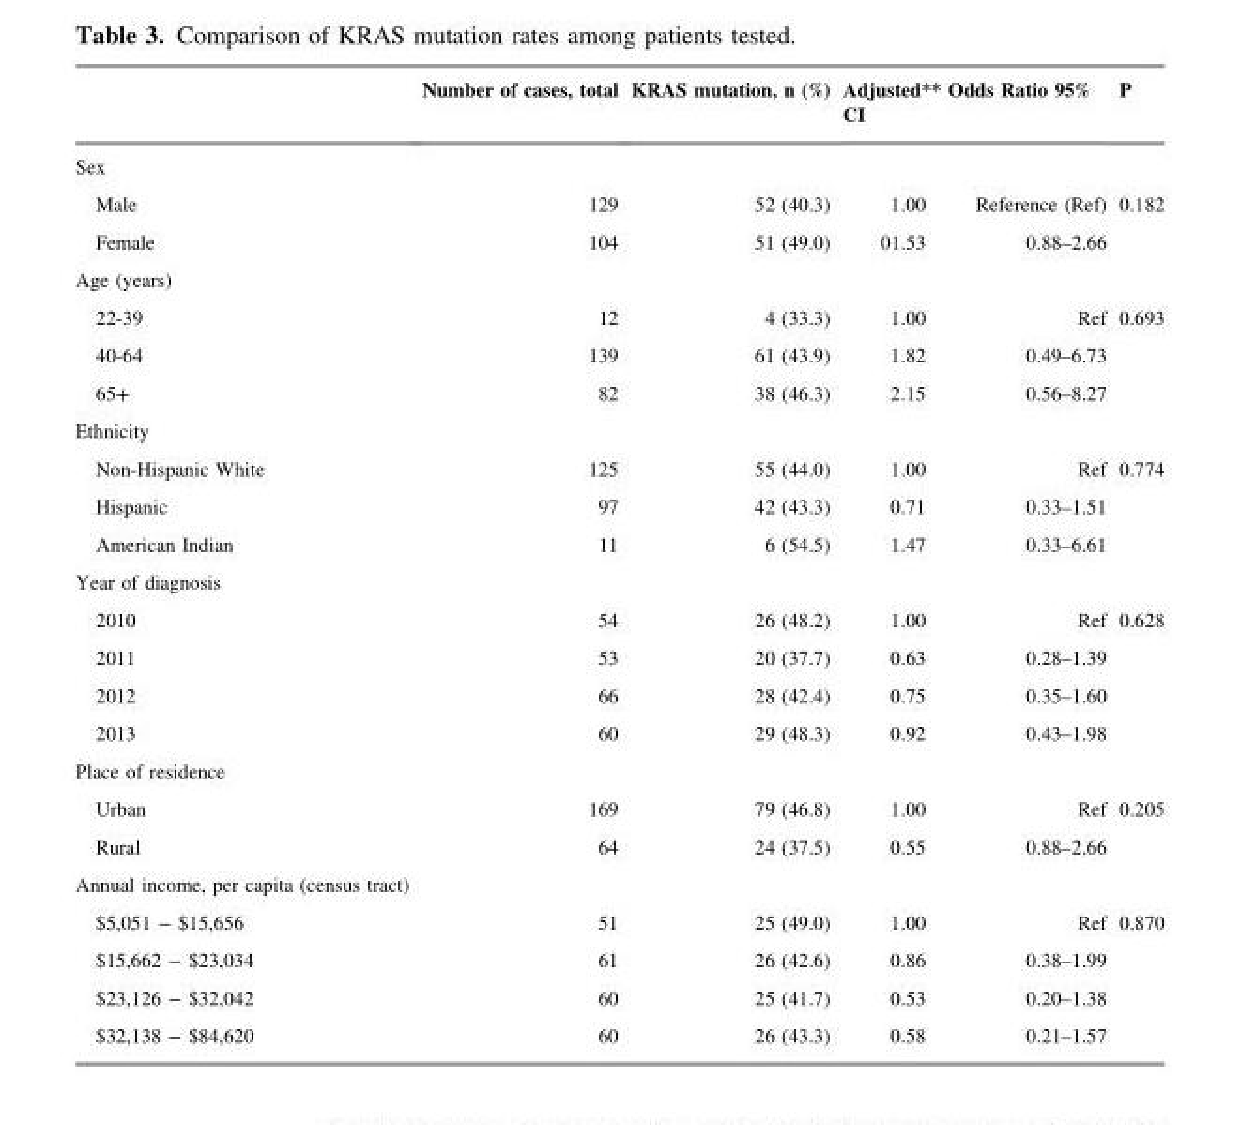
<table><thead><tr><td rowspan="2">Sex</td><td rowspan="2">Number of cases, total</td><td rowspan="2">KRAS mutation, n (%)</td><td colspan="2">Adjusted** Odds Ratio 95% CI</td><td rowspan="2">P</td></tr><tr><td></td><td></td></tr></thead><tbody><tr><td>Male</td><td>129</td><td>52 (40.3)</td><td>1.00</td><td>Reference (Ref)</td><td>0.182</td></tr><tr><td>Female</td><td>104</td><td>51 (49.0)</td><td>01.53</td><td>0.88–2.66</td><td></td></tr><tr><td colspan="6">Age (years)</td></tr><tr><td>22-39</td><td>12</td><td>4 (33.3)</td><td>1.00</td><td>Ref</td><td>0.693</td></tr><tr><td>40-64</td><td>139</td><td>61 (43.9)</td><td>1.82</td><td>0.49–6.73</td><td></td></tr><tr><td>65+</td><td>82</td><td>38 (46.3)</td><td>2.15</td><td>0.56–8.27</td><td></td></tr><tr><td colspan="6">Ethnicity</td></tr><tr><td>Non-Hispanic White</td><td>125</td><td>55 (44.0)</td><td>1.00</td><td>Ref</td><td>0.774</td></tr><tr><td>Hispanic</td><td>97</td><td>42 (43.3)</td><td>0.71</td><td>0.33–1.51</td><td></td></tr><tr><td>American Indian</td><td>11</td><td>6 (54.5)</td><td>1.47</td><td>0.33–6.61</td><td></td></tr><tr><td colspan="6">Year of diagnosis</td></tr><tr><td>2010</td><td>54</td><td>26 (48.2)</td><td>1.00</td><td>Ref</td><td>0.628</td></tr><tr><td>2011</td><td>53</td><td>20 (37.7)</td><td>0.63</td><td>0.28–1.39</td><td></td></tr><tr><td>2012</td><td>66</td><td>28 (42.4)</td><td>0.75</td><td>0.35–1.60</td><td></td></tr><tr><td>2013</td><td>60</td><td>29 (48.3)</td><td>0.92</td><td>0.43–1.98</td><td></td></tr><tr><td colspan="6">Place of residence</td></tr><tr><td>Urban</td><td>169</td><td>79 (46.8)</td><td>1.00</td><td>Ref</td><td>0.205</td></tr><tr><td>Rural</td><td>64</td><td>24 (37.5)</td><td>0.55</td><td>0.88–2.66</td><td></td></tr><tr><td colspan="6">Annual income, per capita (census tract)</td></tr><tr><td>$5,051 − $15,656</td><td>51</td><td>25 (49.0)</td><td>1.00</td><td>Ref</td><td>0.870</td></tr><tr><td>$15,662 − $23,034</td><td>61</td><td>26 (42.6)</td><td>0.86</td><td>0.38–1.99</td><td></td></tr><tr><td>$23,126 − $32,042</td><td>60</td><td>25 (41.7)</td><td>0.53</td><td>0.20–1.38</td><td></td></tr><tr><td>$32,138 − $84,620</td><td>60</td><td>26 (43.3)</td><td>0.58</td><td>0.21–1.57</td><td></td></tr></tbody></table>